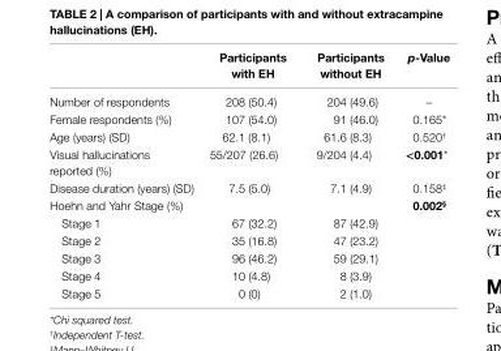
<table><thead><tr><td></td><td>Participants with eh</td><td>Participants without eh</td><td>p-Value</td></tr></thead><tbody><tr><td>Number of respondents</td><td>208 (50.4)</td><td>204 (49.6)</td><td>–</td></tr><tr><td>Female respondents (%)</td><td>107 (54.0)</td><td>91 (46.0)</td><td>0.165*</td></tr><tr><td>Age (years) (SD)</td><td>62.1 (8.1)</td><td>61.6 (8.3)</td><td>0.520<sup>†</sup></td></tr><tr><td>Visual hallucinations reported (%)</td><td>55/207 (26.6)</td><td>9/204 (4.4)</td><td>&lt;0.001*</td></tr><tr><td>Disease duration (years) (SD)</td><td>7.5 (5.0)</td><td>7.1 (4.9)</td><td>0.158<sup>‡</sup></td></tr><tr><td colspan="3">Hoehn and Yahr Stage (%)</td><td rowspan="6">0.002<sup>§</sup></td></tr><tr><td>Stage 1</td><td>67 (32.2)</td><td>87 (42.9)</td></tr><tr><td>Stage 2</td><td>35 (16.8)</td><td>47 (23.2)</td></tr><tr><td>Stage 3</td><td>96 (46.2)</td><td>59 (29.1)</td></tr><tr><td>Stage 4</td><td>10 (4.8)</td><td>8 (3.9)</td></tr><tr><td>Stage 5</td><td>0 (0)</td><td>2 (1.0)</td></tr></tbody></table>